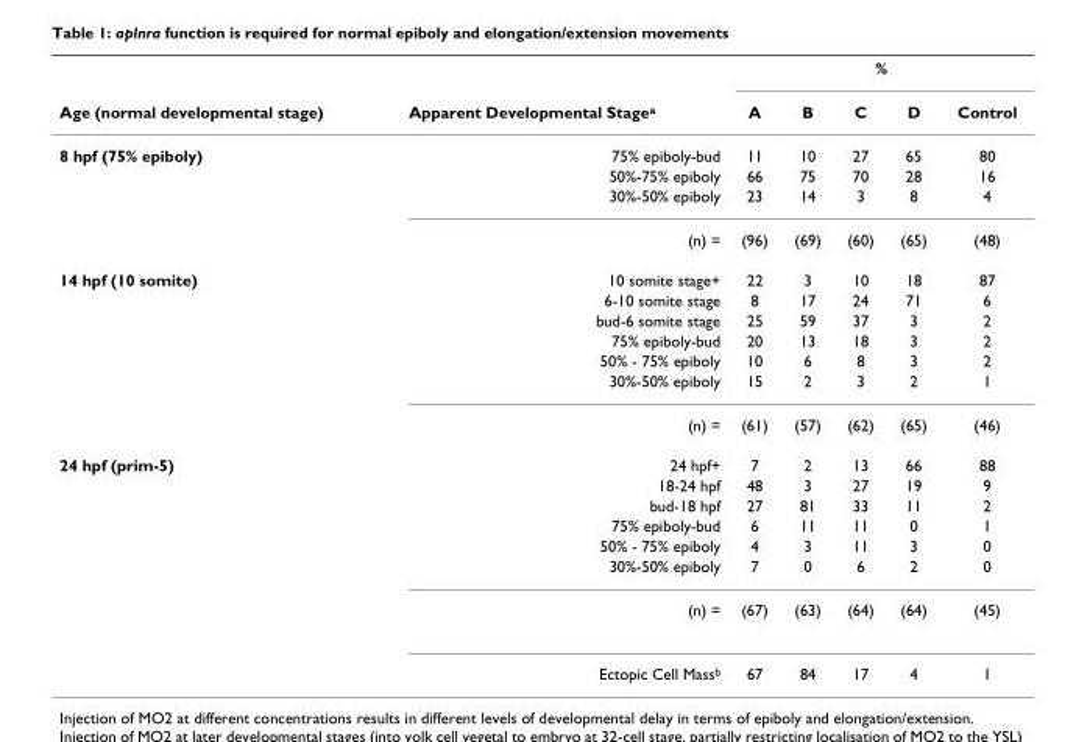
<table><thead><tr><td rowspan="2">Age (normal developmental stage)</td><td rowspan="2">Apparent Developmental Stage<sup>a</sup></td><td colspan="5">%</td></tr><tr><td>A</td><td>B</td><td>C</td><td>D</td><td>Control</td></tr></thead><tbody><tr><td rowspan="4">8 hpf (75% epiboly)</td><td>75% epiboly-bud</td><td>11</td><td>10</td><td>27</td><td>65</td><td>80</td></tr><tr><td>50%-75% epiboly</td><td>66</td><td>75</td><td>70</td><td>28</td><td>16</td></tr><tr><td>30%-50% epiboly</td><td>23</td><td>14</td><td>3</td><td>8</td><td>4</td></tr><tr><td>(n) =</td><td>(96)</td><td>(69)</td><td>(60)</td><td>(65)</td><td>(48)</td></tr><tr><td rowspan="7">14 hpf (10 somite)</td><td>10 somite stage+</td><td>22</td><td>3</td><td>10</td><td>18</td><td>87</td></tr><tr><td>6-10 somite stage</td><td>8</td><td>17</td><td>24</td><td>71</td><td>6</td></tr><tr><td>bud-6 somite stage</td><td>25</td><td>59</td><td>37</td><td>3</td><td>2</td></tr><tr><td>75% epiboly-bud</td><td>20</td><td>13</td><td>18</td><td>3</td><td>2</td></tr><tr><td>50% - 75% epiboly</td><td>10</td><td>6</td><td>8</td><td>3</td><td>2</td></tr><tr><td>30%-50% epiboly</td><td>15</td><td>2</td><td>3</td><td>2</td><td>1</td></tr><tr><td>(n) =</td><td>(61)</td><td>(57)</td><td>(62)</td><td>(65)</td><td>(46)</td></tr><tr><td rowspan="8">24 hpf (prim-5)</td><td>24 hpf+</td><td>7</td><td>2</td><td>13</td><td>66</td><td>88</td></tr><tr><td>18-24 hpf</td><td>48</td><td>3</td><td>27</td><td>19</td><td>9</td></tr><tr><td>bud-18 hpf</td><td>27</td><td>81</td><td>33</td><td>11</td><td>2</td></tr><tr><td>75% epiboly-bud</td><td>6</td><td>11</td><td>11</td><td>0</td><td>1</td></tr><tr><td>50% - 75% epiboly</td><td>4</td><td>3</td><td>11</td><td>3</td><td>0</td></tr><tr><td>30%-50% epiboly</td><td>7</td><td>0</td><td>6</td><td>2</td><td>0</td></tr><tr><td>(n) =</td><td>(67)</td><td>(63)</td><td>(64)</td><td>(64)</td><td>(45)</td></tr><tr><td>Ectopic Cell Mass<sup>b</sup></td><td>67</td><td>84</td><td>17</td><td>4</td><td>1</td></tr></tbody></table>